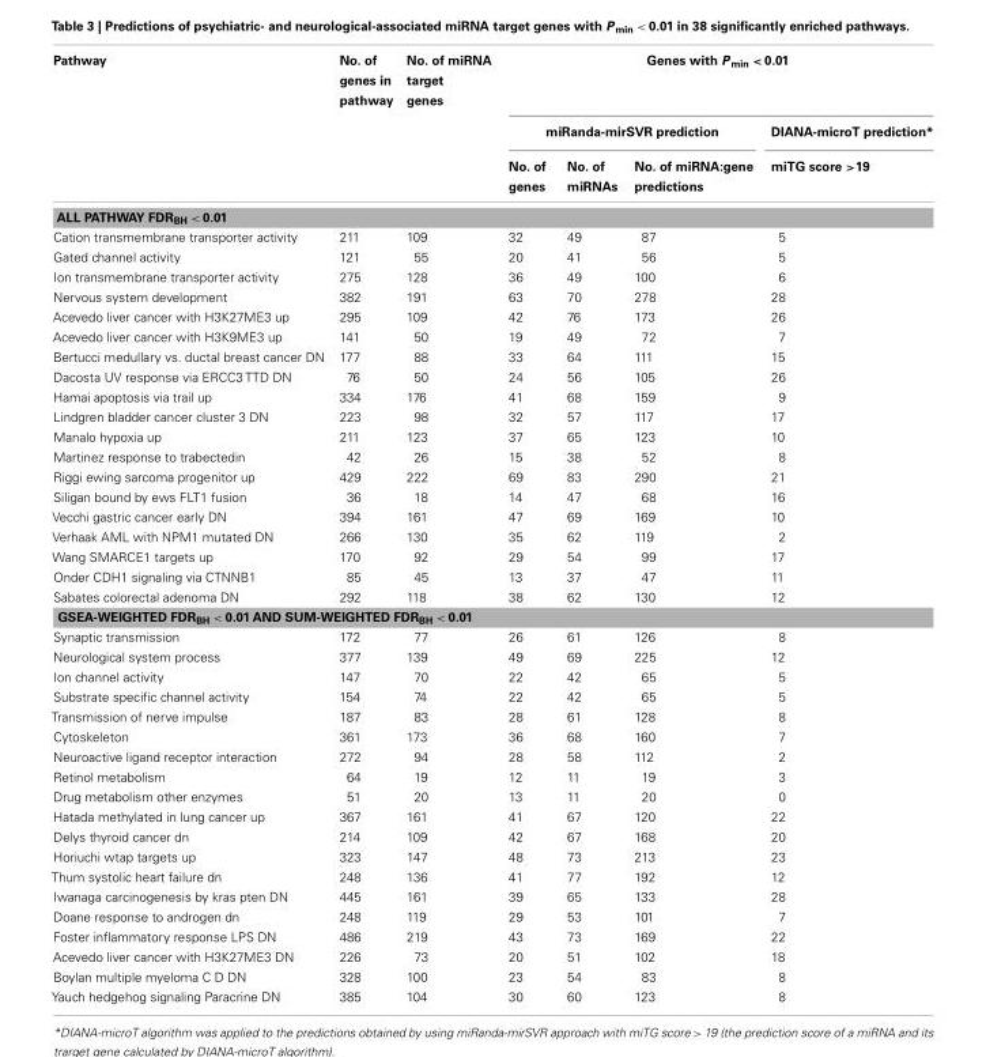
<table><thead><tr><td rowspan="3">Pathway</td><td rowspan="3">No. of genes in pathway</td><td rowspan="3">No. of miRNA target genes</td><td colspan="4">Genes with P <sub>min</sub> &lt; 0.01</td></tr><tr><td colspan="3">miRanda-mirSVR prediction</td><td rowspan="2">DIANA-microT prediction* miTG score &gt;19</td></tr><tr><td>No. of genes</td><td>No. of miRNAs</td><td>No. of miRNA:gene predictions</td></tr></thead><tbody><tr><td colspan="7">ALL PATHWAY FDR<sub>BH</sub> &lt; 0.01</td></tr><tr><td>Cation transmembrane transporter activity</td><td>211</td><td>109</td><td>32</td><td>49</td><td>87</td><td>5</td></tr><tr><td>Gated channel activity</td><td>121</td><td>55</td><td>20</td><td>41</td><td>56</td><td>5</td></tr><tr><td>Ion transmembrane transporter activity</td><td>275</td><td>128</td><td>36</td><td>49</td><td>100</td><td>6</td></tr><tr><td>Nervous system development</td><td>382</td><td>191</td><td>63</td><td>70</td><td>278</td><td>28</td></tr><tr><td>Acevedo liver cancer with H3K27ME3 up</td><td>295</td><td>109</td><td>42</td><td>76</td><td>173</td><td>26</td></tr><tr><td>Acevedo liver cancer with H3K9ME3 up</td><td>141</td><td>50</td><td>19</td><td>49</td><td>72</td><td>7</td></tr><tr><td>Bertucci medullary vs. ductal breast cancer DN</td><td>177</td><td>88</td><td>33</td><td>64</td><td>111</td><td>15</td></tr><tr><td>Dacosta UV response via ERCC3 TTD DN</td><td>76</td><td>50</td><td>24</td><td>56</td><td>105</td><td>26</td></tr><tr><td>Hamai apoptosis via trail up</td><td>334</td><td>176</td><td>41</td><td>68</td><td>159</td><td>9</td></tr><tr><td>Lindgren bladder cancer cluster 3 DN</td><td>223</td><td>98</td><td>32</td><td>57</td><td>117</td><td>17</td></tr><tr><td>Manalo hypoxia up</td><td>211</td><td>123</td><td>37</td><td>65</td><td>123</td><td>10</td></tr><tr><td>Martinez response to trabectedin</td><td>42</td><td>26</td><td>15</td><td>38</td><td>52</td><td>8</td></tr><tr><td>Riggi ewing sarcoma progenitor up</td><td>429</td><td>222</td><td>69</td><td>83</td><td>290</td><td>21</td></tr><tr><td>Siligan bound by ews FLT1 fusion</td><td>36</td><td>18</td><td>14</td><td>47</td><td>68</td><td>16</td></tr><tr><td>Vecchi gastric cancer early DN</td><td>394</td><td>161</td><td>47</td><td>69</td><td>169</td><td>10</td></tr><tr><td>Verhaak AML with NPM1 mutated DN</td><td>266</td><td>130</td><td>35</td><td>62</td><td>119</td><td>2</td></tr><tr><td>Wang SMARCE1 targets up</td><td>170</td><td>92</td><td>29</td><td>54</td><td>99</td><td>17</td></tr><tr><td>Onder CDH1 signaling via CTNNB1</td><td>85</td><td>45</td><td>13</td><td>37</td><td>47</td><td>11</td></tr><tr><td>Sabates colorectal adenoma DN</td><td>292</td><td>118</td><td>38</td><td>62</td><td>130</td><td>12</td></tr><tr><td colspan="7">GSEA-WEIGHTED FDR<sub>BH</sub> &lt; 0.01 AND SUM-WEIGHTED FDR<sub>BH</sub> &lt; 0.01</td></tr><tr><td>Synaptic transmission</td><td>172</td><td>77</td><td>26</td><td>61</td><td>126</td><td>8</td></tr><tr><td>Neurological system process</td><td>377</td><td>139</td><td>49</td><td>69</td><td>225</td><td>12</td></tr><tr><td>Ion channel activity</td><td>147</td><td>70</td><td>22</td><td>42</td><td>65</td><td>5</td></tr><tr><td>Substrate specific channel activity</td><td>154</td><td>74</td><td>22</td><td>42</td><td>65</td><td>5</td></tr><tr><td>Transmission of nerve impulse</td><td>187</td><td>83</td><td>28</td><td>61</td><td>128</td><td>8</td></tr><tr><td>Cytoskeleton</td><td>361</td><td>173</td><td>36</td><td>68</td><td>160</td><td>7</td></tr><tr><td>Neuroactive ligand receptor interaction</td><td>272</td><td>94</td><td>28</td><td>58</td><td>112</td><td>2</td></tr><tr><td>Retinol metabolism</td><td>64</td><td>19</td><td>12</td><td>11</td><td>19</td><td>3</td></tr><tr><td>Drug metabolism other enzymes</td><td>51</td><td>20</td><td>13</td><td>11</td><td>20</td><td>0</td></tr><tr><td>Hatada methylated in lung cancer up</td><td>367</td><td>161</td><td>41</td><td>67</td><td>120</td><td>22</td></tr><tr><td>Delys thyroid cancer dn</td><td>214</td><td>109</td><td>42</td><td>67</td><td>168</td><td>20</td></tr><tr><td>Horiuchi wtap targets up</td><td>323</td><td>147</td><td>48</td><td>73</td><td>213</td><td>23</td></tr><tr><td>Thum systolic heart failure dn</td><td>248</td><td>136</td><td>41</td><td>77</td><td>192</td><td>12</td></tr><tr><td>Iwanaga carcinogenesis by kras pten DN</td><td>445</td><td>161</td><td>39</td><td>65</td><td>133</td><td>28</td></tr><tr><td>Doane response to androgen dn</td><td>248</td><td>119</td><td>29</td><td>53</td><td>101</td><td>7</td></tr><tr><td>Foster inflammatory response LPS DN</td><td>486</td><td>219</td><td>43</td><td>73</td><td>169</td><td>22</td></tr><tr><td>Acevedo liver cancer with H3K27ME3 DN</td><td>226</td><td>73</td><td>20</td><td>51</td><td>102</td><td>18</td></tr><tr><td>Boylan multiple myeloma C D DN</td><td>328</td><td>100</td><td>23</td><td>54</td><td>83</td><td>8</td></tr><tr><td>Yauch hedgehog signaling Paracrine DN</td><td>385</td><td>104</td><td>30</td><td>60</td><td>123</td><td>8</td></tr></tbody></table>